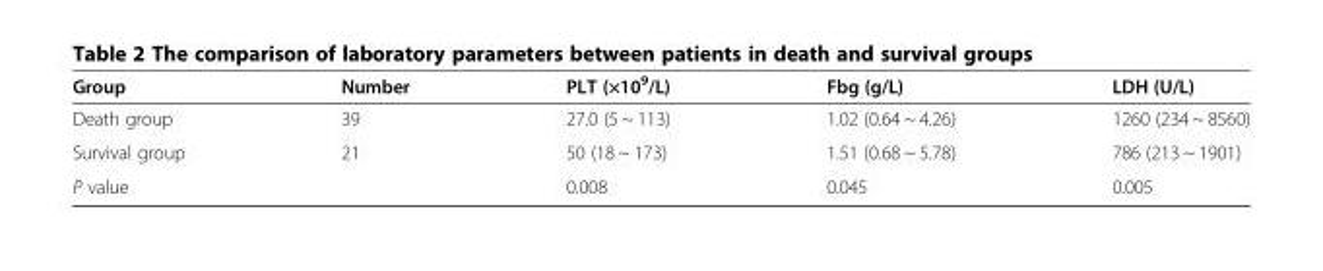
<table><thead><tr><td>Group</td><td>Number</td><td>PLT (×10<sup>9</sup>/L)</td><td>Fbg (g/L)</td><td>LDH (U/L)</td></tr></thead><tbody><tr><td>Death group</td><td>39</td><td>27.0 (5 ~ 113)</td><td>1.02 (0.64 ~ 4.26)</td><td>1260 (234 ~ 8560)</td></tr><tr><td>Survival group</td><td>21</td><td>50 (18 ~ 173)</td><td>1.51 (0.68 ~ 5.78)</td><td>786 (213 ~ 1901)</td></tr><tr><td>P value</td><td></td><td>0.008</td><td>0.045</td><td>0.005</td></tr></tbody></table>